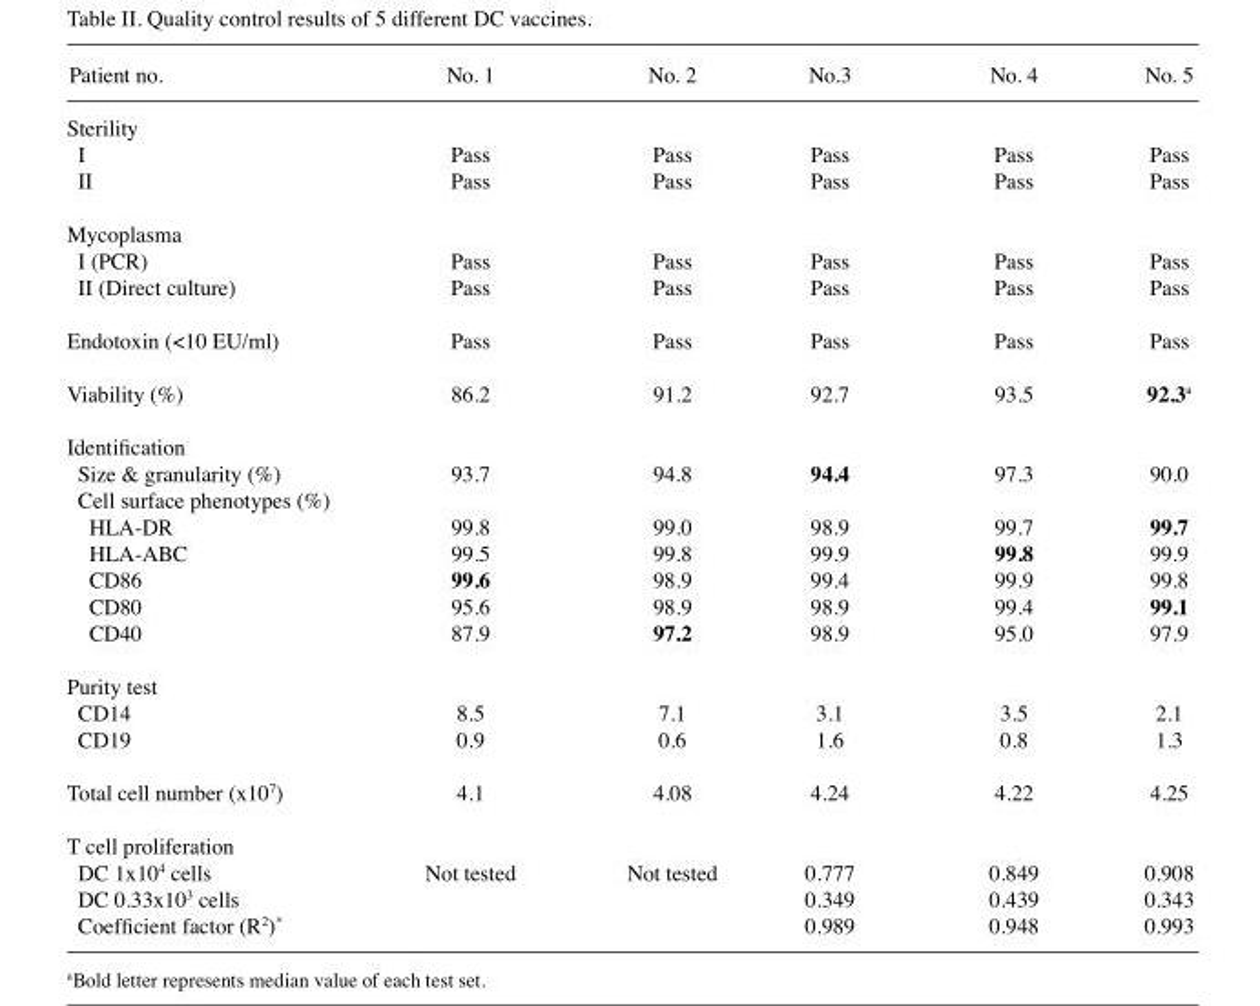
<table><thead><tr><td>Patient no.</td><td>No. 1</td><td>No. 2</td><td>No.3</td><td>No. 4</td><td>No. 5</td></tr></thead><tbody><tr><td colspan="6">Sterility</td></tr><tr><td>I</td><td>Pass</td><td>Pass</td><td>Pass</td><td>Pass</td><td>Pass</td></tr><tr><td>II</td><td>Pass</td><td>Pass</td><td>Pass</td><td>Pass</td><td>Pass</td></tr><tr><td colspan="6">Mycoplasma</td></tr><tr><td>I (PCR)</td><td>Pass</td><td>Pass</td><td>Pass</td><td>Pass</td><td>Pass</td></tr><tr><td>II (Direct culture)</td><td>Pass</td><td>Pass</td><td>Pass</td><td>Pass</td><td>Pass</td></tr><tr><td>Endotoxin (&lt;10 EU/ml)</td><td>Pass</td><td>Pass</td><td>Pass</td><td>Pass</td><td>Pass</td></tr><tr><td>Viability (%)</td><td>86.2</td><td>91.2</td><td>92.7</td><td>93.5</td><td>92.3<sup>a</sup></td></tr><tr><td colspan="6">Identification</td></tr><tr><td>Size &amp; granularity (%)</td><td>93.7</td><td>94.8</td><td>94.4</td><td>97.3</td><td>90.0</td></tr><tr><td colspan="6">Cell surface phenotypes (%)</td></tr><tr><td>HLA-DR</td><td>99.8</td><td>99.0</td><td>98.9</td><td>99.7</td><td>99.7</td></tr><tr><td>HLA-ABC</td><td>99.5</td><td>99.8</td><td>99.9</td><td>99.8</td><td>99.9</td></tr><tr><td>CD86</td><td>99.6</td><td>98.9</td><td>99.4</td><td>99.9</td><td>99.8</td></tr><tr><td>CD80</td><td>95.6</td><td>98.9</td><td>98.9</td><td>99.4</td><td>99.1</td></tr><tr><td>CD40</td><td>87.9</td><td>97.2</td><td>98.9</td><td>95.0</td><td>97.9</td></tr><tr><td colspan="6">Purity test</td></tr><tr><td>CD14</td><td>8.5</td><td>7.1</td><td>3.1</td><td>3.5</td><td>2.1</td></tr><tr><td>CD19</td><td>0.9</td><td>0.6</td><td>1.6</td><td>0.8</td><td>1.3</td></tr><tr><td>Total cell number (x107)</td><td>4.1</td><td>4.08</td><td>4.24</td><td>4.22</td><td>4.25</td></tr><tr><td colspan="6">T cell proliferation</td></tr><tr><td>DC 1x104 cells</td><td>Not tested</td><td>Not tested</td><td>0.777</td><td>0.849</td><td>0.908</td></tr><tr><td>DC 0.33x103 cells</td><td></td><td></td><td>0.349</td><td>0.439</td><td>0.343</td></tr><tr><td>Coefficient factor (R<sup>2</sup>)*</td><td></td><td></td><td>0.989</td><td>0.948</td><td>0.993</td></tr></tbody></table>